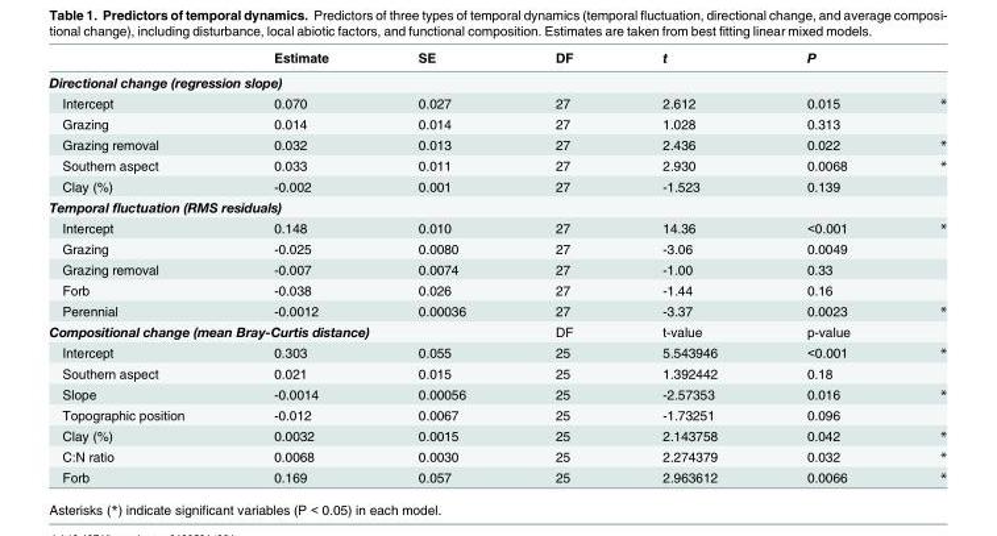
<table><thead><tr><td></td><td>Estimate</td><td>SE</td><td>DF</td><td>t</td><td>P</td><td></td></tr></thead><tbody><tr><td colspan="7">Directional change (regression slope)</td></tr><tr><td>Intercept</td><td>0.070</td><td>0.027</td><td>27</td><td>2.612</td><td>0.015</td><td>*</td></tr><tr><td>Grazing</td><td>0.014</td><td>0.014</td><td>27</td><td>1.028</td><td>0.313</td><td></td></tr><tr><td>Grazing removal</td><td>0.032</td><td>0.013</td><td>27</td><td>2.436</td><td>0.022</td><td>*</td></tr><tr><td>Southern aspect</td><td>0.033</td><td>0.011</td><td>27</td><td>2.930</td><td>0.0068</td><td>*</td></tr><tr><td>Clay (%)</td><td>-0.002</td><td>0.001</td><td>27</td><td>-1.523</td><td>0.139</td><td></td></tr><tr><td colspan="7">Temporal fluctuation (RMS residuals)</td></tr><tr><td>Intercept</td><td>0.148</td><td>0.010</td><td>27</td><td>14.36</td><td>&lt;0.001</td><td>*</td></tr><tr><td>Grazing</td><td>-0.025</td><td>0.0080</td><td>27</td><td>-3.06</td><td>0.0049</td><td></td></tr><tr><td>Grazing removal</td><td>-0.007</td><td>0.0074</td><td>27</td><td>-1.00</td><td>0.33</td><td></td></tr><tr><td>Forb</td><td>-0.038</td><td>0.026</td><td>27</td><td>-1.44</td><td>0.16</td><td></td></tr><tr><td>Perennial</td><td>-0.0012</td><td>0.00036</td><td>27</td><td>-3.37</td><td>0.0023</td><td>*</td></tr><tr><td colspan="3">Compositional change (mean Bray-Curtis distance)</td><td>DF</td><td>t-value</td><td>p-value</td><td></td></tr><tr><td>Intercept</td><td>0.303</td><td>0.055</td><td>25</td><td>5.543946</td><td>&lt;0.001</td><td>*</td></tr><tr><td>Southern aspect</td><td>0.021</td><td>0.015</td><td>25</td><td>1.392442</td><td>0.18</td><td></td></tr><tr><td>Slope</td><td>-0.0014</td><td>0.00056</td><td>25</td><td>-2.57353</td><td>0.016</td><td>*</td></tr><tr><td>Topographic position</td><td>-0.012</td><td>0.0067</td><td>25</td><td>-1.73251</td><td>0.096</td><td></td></tr><tr><td>Clay (%)</td><td>0.0032</td><td>0.0015</td><td>25</td><td>2.143758</td><td>0.042</td><td>*</td></tr><tr><td>C:N ratio</td><td>0.0068</td><td>0.0030</td><td>25</td><td>2.274379</td><td>0.032</td><td>*</td></tr><tr><td>Forb</td><td>0.169</td><td>0.057</td><td>25</td><td>2.963612</td><td>0.0066</td><td>*</td></tr></tbody></table>